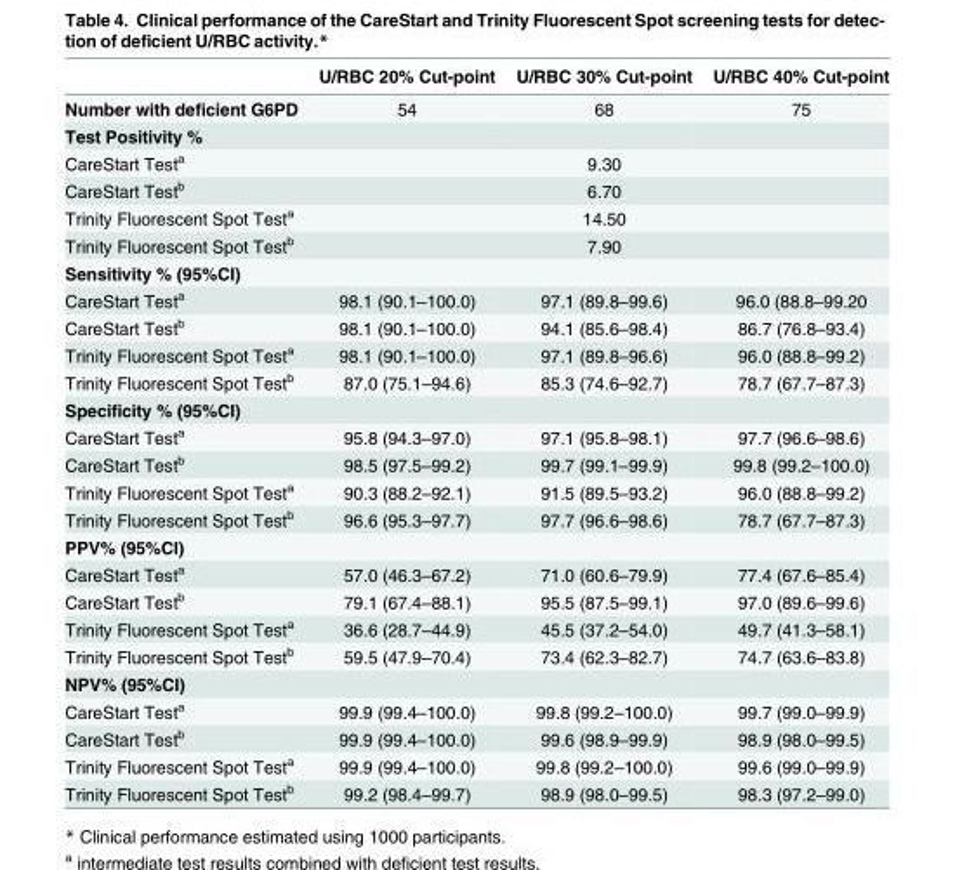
<table><thead><tr><td></td><td>U/RBC 20% Cut-point</td><td>U/RBC 30% Cut-point</td><td>U/RBC 40% Cut-point</td></tr></thead><tbody><tr><td>Number with deficient G6PD</td><td>54</td><td>68</td><td>75</td></tr><tr><td colspan="4">Test Positivity %</td></tr><tr><td>CareStart Test<sup>a</sup></td><td colspan="3">9.30</td></tr><tr><td>CareStart Test<sup>b</sup></td><td colspan="3">6.70</td></tr><tr><td>Trinity Fluorescent Spot Test<sup>a</sup></td><td colspan="3">14.50</td></tr><tr><td>Trinity Fluorescent Spot Test<sup>b</sup></td><td colspan="3">7.90</td></tr><tr><td colspan="4">Sensitivity % (95%CI)</td></tr><tr><td>CareStart Test<sup>a</sup></td><td>98.1 (90.1–100.0)</td><td>97.1 (89.8–99.6)</td><td>96.0 (88.8–99.20</td></tr><tr><td>CareStart Test<sup>b</sup></td><td>98.1 (90.1–100.0)</td><td>94.1 (85.6–98.4)</td><td>86.7 (76.8–93.4)</td></tr><tr><td>Trinity Fluorescent Spot Test<sup>a</sup></td><td>98.1 (90.1–100.0)</td><td>97.1 (89.8–96.6)</td><td>96.0 (88.8–99.2)</td></tr><tr><td>Trinity Fluorescent Spot Test<sup>b</sup></td><td>87.0 (75.1–94.6)</td><td>85.3 (74.6–92.7)</td><td>78.7 (67.7–87.3)</td></tr><tr><td colspan="4">Specificity % (95%CI)</td></tr><tr><td>CareStart Test<sup>a</sup></td><td>95.8 (94.3–97.0)</td><td>97.1 (95.8–98.1)</td><td>97.7 (96.6–98.6)</td></tr><tr><td>CareStart Test<sup>b</sup></td><td>98.5 (97.5–99.2)</td><td>99.7 (99.1–99.9)</td><td>99.8 (99.2–100.0)</td></tr><tr><td>Trinity Fluorescent Spot Test<sup>a</sup></td><td>90.3 (88.2–92.1)</td><td>91.5 (89.5–93.2)</td><td>96.0 (88.8–99.2)</td></tr><tr><td>Trinity Fluorescent Spot Test<sup>b</sup></td><td>96.6 (95.3–97.7)</td><td>97.7 (96.6–98.6)</td><td>78.7 (67.7–87.3)</td></tr><tr><td colspan="4">PPV% (95%CI)</td></tr><tr><td>CareStart Test<sup>a</sup></td><td>57.0 (46.3–67.2)</td><td>71.0 (60.6–79.9)</td><td>77.4 (67.6–85.4)</td></tr><tr><td>CareStart Test<sup>b</sup></td><td>79.1 (67.4–88.1)</td><td>95.5 (87.5–99.1)</td><td>97.0 (89.6–99.6)</td></tr><tr><td>Trinity Fluorescent Spot Test<sup>a</sup></td><td>36.6 (28.7–44.9)</td><td>45.5 (37.2–54.0)</td><td>49.7 (41.3–58.1)</td></tr><tr><td>Trinity Fluorescent Spot Test<sup>b</sup></td><td>59.5 (47.9–70.4)</td><td>73.4 (62.3–82.7)</td><td>74.7 (63.6–83.8)</td></tr><tr><td colspan="4">NPV% (95%CI)</td></tr><tr><td>CareStart Test<sup>a</sup></td><td>99.9 (99.4–100.0)</td><td>99.8 (99.2–100.0)</td><td>99.7 (99.0–99.9)</td></tr><tr><td>CareStart Test<sup>b</sup></td><td>99.9 (99.4–100.0)</td><td>99.6 (98.9–99.9)</td><td>98.9 (98.0–99.5)</td></tr><tr><td>Trinity Fluorescent Spot Test<sup>a</sup></td><td>99.9 (99.4–100.0)</td><td>99.8 (99.2–100.0)</td><td>99.6 (99.0–99.9)</td></tr><tr><td>Trinity Fluorescent Spot Test<sup>b</sup></td><td>99.2 (98.4–99.7)</td><td>98.9 (98.0–99.5)</td><td>98.3 (97.2–99.0)</td></tr></tbody></table>